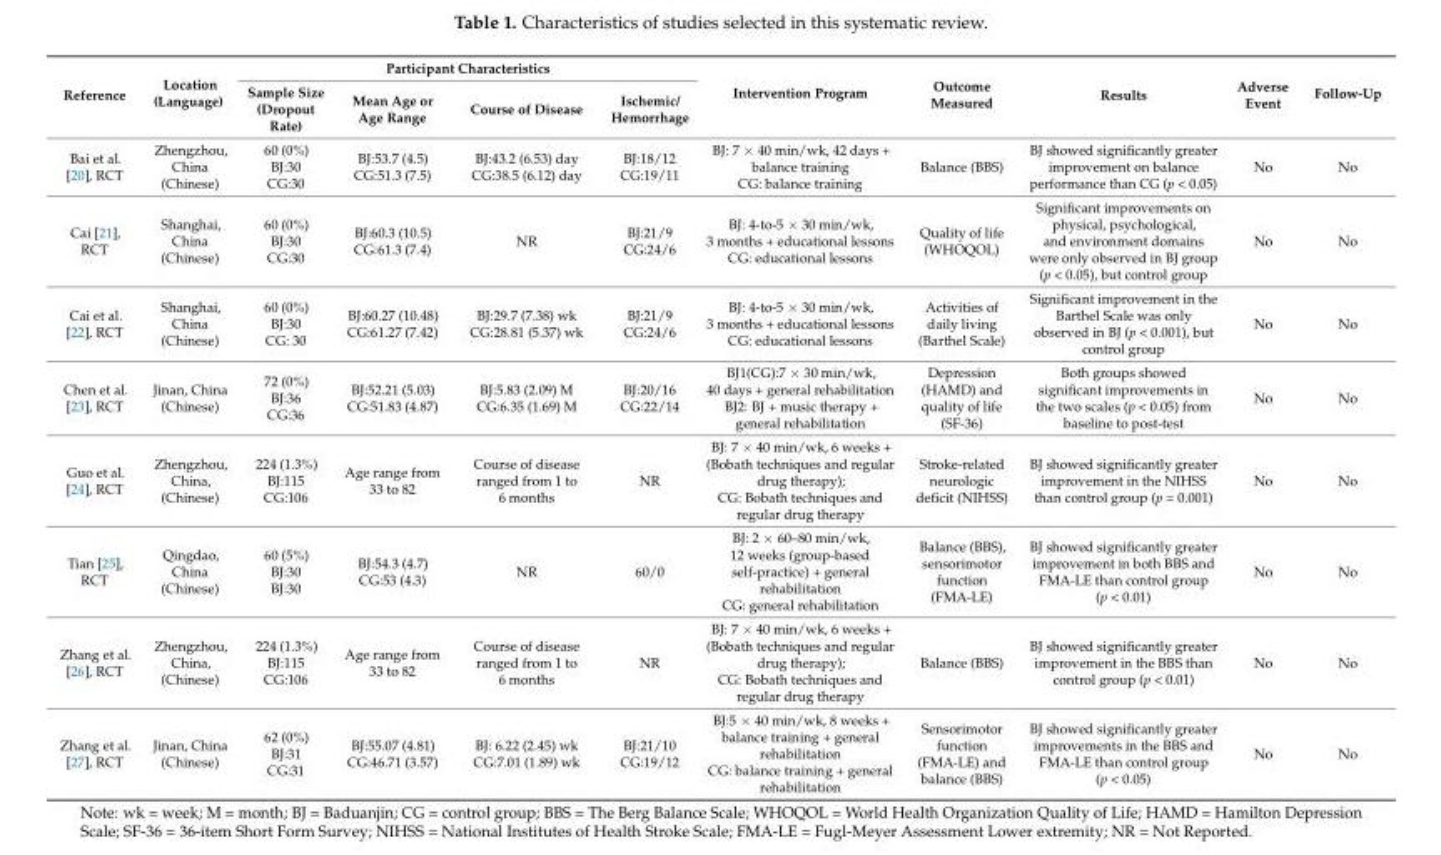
<table><thead><tr><td rowspan="2">Reference</td><td rowspan="2">Location (Language)</td><td colspan="4">Participant Characteristics</td><td rowspan="2">Intervention Program</td><td rowspan="2">Outcome Measured</td><td rowspan="2">Results</td><td rowspan="2">Adverse Event</td><td rowspan="2">Follow-Up</td></tr><tr><td>Sample Size (Dropout Rate)</td><td>Mean Age or Age Range</td><td>Course of Disease</td><td>Ischemic/ Hemorrhage</td></tr></thead><tbody><tr><td>Bai et al. [20], RCT</td><td>Zhengzhou, China (Chinese)</td><td>60 (0%) BJ:30 CG:30</td><td>BJ:53.7 (4.5) CG:51.3 (7.5)</td><td>BJ:43.2 (6.53) day CG:38.5 (6.12) day</td><td>BJ:18/12 CG:19/11</td><td>BJ: 7 × 40 min/wk, 42 days + balance training CG: balance training</td><td>Balance (BBS)</td><td>BJ showed significantly greater improvement on balance performance than CG (p &lt; 0.05)</td><td>No</td><td>No</td></tr><tr><td>Cai [21], RCT</td><td>Shanghai, China (Chinese)</td><td>60 (0%) BJ:30 CG:30</td><td>BJ:60.3 (10.5) CG:61.3 (7.4)</td><td>NR</td><td>BJ:21/9 CG:24/6</td><td>BJ: 4-to-5 × 30 min/wk, 3 months + educational lessons CG: educational lessons</td><td>Quality of life (WHOQOL)</td><td>Significant improvements on physical, psychological, and environment domains were only observed in BJ group (p &lt; 0.05), but control group</td><td>No</td><td>No</td></tr><tr><td>Cai et al. [22], RCT</td><td>Shanghai, China (Chinese)</td><td>60 (0%) BJ:30 CG: 30</td><td>BJ:60.27 (10.48) CG:61.27 (7.42)</td><td>BJ:29.7 (7.38) wk CG:28.81 (5.37) wk</td><td>BJ:21/9 CG:24/6</td><td>BJ: 4-to-5 × 30 min/wk, 3 months + educational lessons CG: educational lessons</td><td>Activities of daily living (Barthel Scale)</td><td>Significant improvement in the Barthel Scale was only observed in BJ (p &lt; 0.001), but control group</td><td>No</td><td>No</td></tr><tr><td>Chen et al. [23], RCT</td><td>Jinan, China (Chinese)</td><td>72 (0%) BJ:36 CG:36</td><td>BJ:52.21 (5.03) CG:51.83 (4.87)</td><td>BJ:5.83 (2.09) M CG:6.35 (1.69) M</td><td>BJ:20/16 CG:22/14</td><td>BJ1(CG):7 × 30 min/wk, 40 days + general rehabilitation BJ2: BJ + music therapy + general rehabilitation</td><td>Depression (HAMD) and quality of life (SF-36)</td><td>Both groups showed significant improvements in the two scales (p &lt; 0.05) from baseline to post-test</td><td>No</td><td>No</td></tr><tr><td>Guo et al. [24], RCT</td><td>Zhengzhou, China, (Chinese)</td><td>224 (1.3%) BJ:115 CG:106</td><td>Age range from 33 to 82</td><td>Course of disease ranged from 1 to 6 months</td><td>NR</td><td>BJ: 7 × 40 min/wk, 6 weeks + (Bobath techniques and regular drug therapy); CG: Bobath techniques and regular drug therapy</td><td>Stroke-related neurologic deficit (NIHSS)</td><td>BJ showed significantly greater improvement in the NIHSS than control group (p = 0.001)</td><td>No</td><td>No</td></tr><tr><td>Tian [25], RCT</td><td>Qingdao, China (Chinese)</td><td>60 (5%) BJ:30 BJ:30</td><td>BJ:54.3 (4.7) CG:53 (4.3)</td><td>NR</td><td>60/0</td><td>BJ: 2 × 60–80 min/wk, 12 weeks (group-based self-practice) + general rehabilitation CG: general rehabilitation</td><td>Balance (BBS), sensorimotor function (FMA-LE)</td><td>BJ showed significantly greater improvement in both BBS and FMA-LE than control group (p &lt; 0.01)</td><td>No</td><td>No</td></tr><tr><td>Zhang et al. [26], RCT</td><td>Zhengzhou, China, (Chinese)</td><td>224 (1.3%) BJ:115 CG:106</td><td>Age range from 33 to 82</td><td>Course of disease ranged from 1 to 6 months</td><td>NR</td><td>BJ: 7 × 40 min/wk, 6 weeks + (Bobath techniques and regular drug therapy); CG: Bobath techniques and regular drug therapy</td><td>Balance (BBS)</td><td>BJ showed significantly greater improvement in the BBS than control group (p &lt; 0.01)</td><td>No</td><td>No</td></tr><tr><td>Zhang et al. [27], RCT</td><td>Jinan, China (Chinese)</td><td>62 (0%) BJ:31 CG:31</td><td>BJ:55.07 (4.81) CG:46.71 (3.57)</td><td>BJ: 6.22 (2.45) wk CG:7.01 (1.89) wk</td><td>BJ:21/10 CG:19/12</td><td>BJ:5 × 40 min/wk, 8 weeks + balance training + general rehabilitation CG: balance training + general rehabilitation</td><td>Sensorimotor function (FMA-LE) and balance (BBS)</td><td>BJ showed significantly greater improvements in the BBS and FMA-LE than control group (p &lt; 0.05)</td><td>No</td><td>No</td></tr></tbody></table>